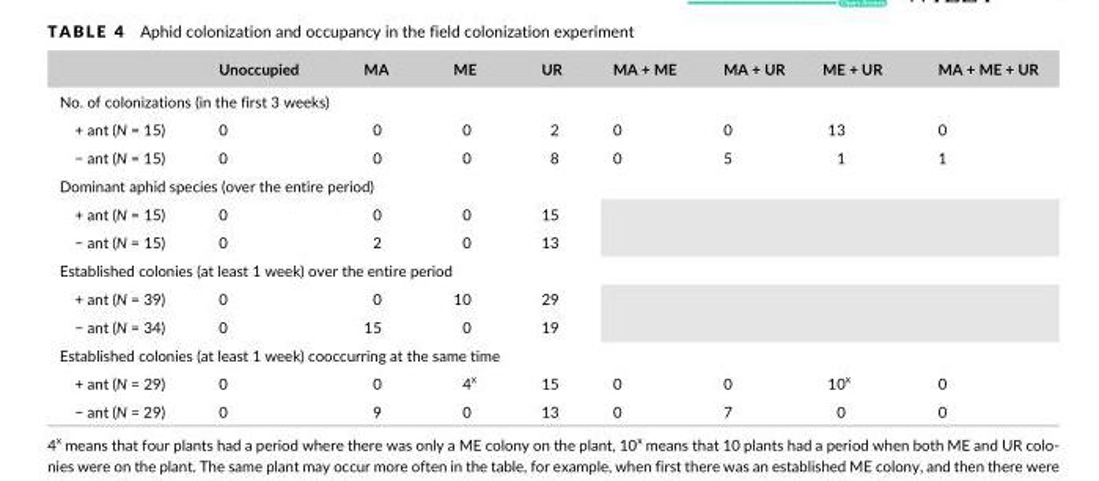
<table><thead><tr><td></td><td>Unoccupied</td><td>MA</td><td>ME</td><td>UR</td><td>MA + ME</td><td>MA + UR</td><td>ME + UR</td><td>MA + ME + UR</td></tr></thead><tbody><tr><td colspan="9">No. of colonizations (in the first 3 weeks)</td></tr><tr><td>+ ant (N = 15)</td><td>0</td><td>0</td><td>0</td><td>2</td><td>0</td><td>0</td><td>13</td><td>0</td></tr><tr><td>− ant (N = 15)</td><td>0</td><td>0</td><td>0</td><td>8</td><td>0</td><td>5</td><td>1</td><td>1</td></tr><tr><td colspan="9">Dominant aphid species (over the entire period)</td></tr><tr><td>+ ant (N = 15)</td><td>0</td><td>0</td><td>0</td><td>15</td><td></td><td></td><td></td><td></td></tr><tr><td>− ant (N = 15)</td><td>0</td><td>2</td><td>0</td><td>13</td><td></td><td></td><td></td><td></td></tr><tr><td colspan="9">Established colonies (at least 1 week) over the entire period</td></tr><tr><td>+ ant (N = 39)</td><td>0</td><td>0</td><td>10</td><td>29</td><td></td><td></td><td></td><td></td></tr><tr><td>− ant (N = 34)</td><td>0</td><td>15</td><td>0</td><td>19</td><td></td><td></td><td></td><td></td></tr><tr><td colspan="9">Established colonies (at least 1 week) cooccurring at the same time</td></tr><tr><td>+ ant (N = 29)</td><td>0</td><td>0</td><td>4<sup>x</sup></td><td>15</td><td>0</td><td>0</td><td>10<sup>x</sup></td><td>0</td></tr><tr><td>− ant (N = 29)</td><td>0</td><td>9</td><td>0</td><td>13</td><td>0</td><td>7</td><td>0</td><td>0</td></tr></tbody></table>